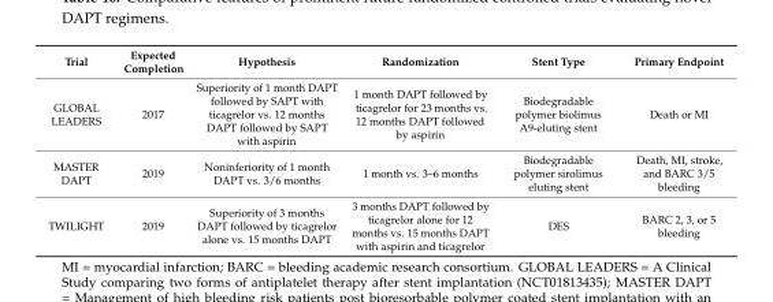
<table><thead><tr><td>Trial</td><td>Expected Completion</td><td>Hypothesis</td><td>Randomization</td><td>Stent Type</td><td>Primary Endpoint</td></tr></thead><tbody><tr><td>GLOBAL LEADERS</td><td>2017</td><td>Superiority of 1 month DAPT followed by SAPT with ticagrelor vs. 12 months DAPT followed by SAPT with aspirin</td><td>1 month DAPT followed by ticagrelor for 23 months vs. 12 months DAPT followed by aspirin</td><td>Biodegradable polymer biolimus A9-eluting stent</td><td>Death or MI</td></tr><tr><td>MASTER DAPT</td><td>2019</td><td>Noninferiority of 1 month DAPT vs. 3/6 months</td><td>1 month vs. 3–6 months</td><td>Biodegradable polymer sirolimus eluting stent</td><td>Death, MI, stroke, and BARC 3/5 bleeding</td></tr><tr><td>TWILIGHT</td><td>2019</td><td>Superiority of 3 months DAPT followed by ticagrelor alone vs. 15 months DAPT</td><td>3 months DAPT followed by ticagrelor alone for 12 months vs. 15 months DAPT with aspirin and ticagrelor</td><td>DES</td><td>BARC 2, 3, or 5 bleeding</td></tr></tbody></table>